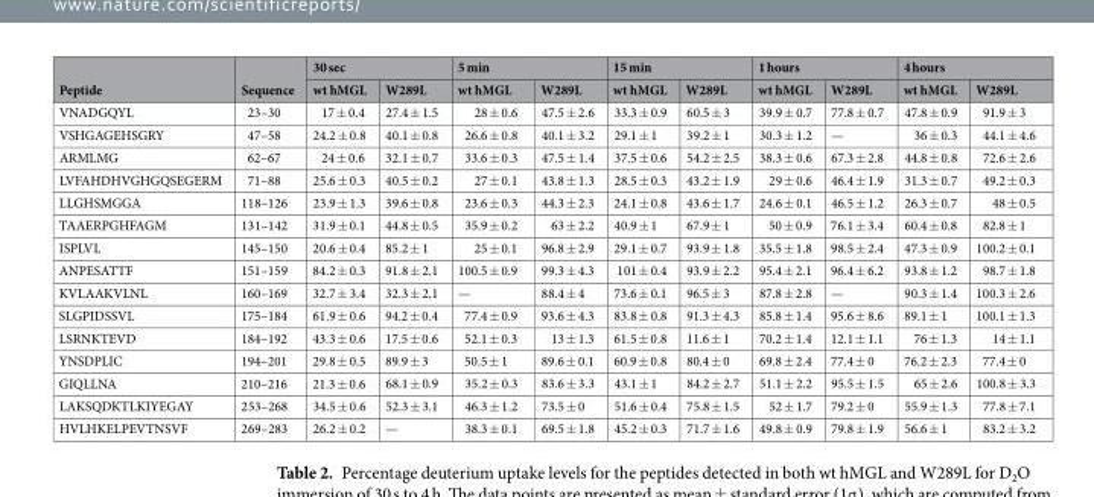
<table><thead><tr><td rowspan="2">Peptide</td><td rowspan="2">Sequence</td><td colspan="2">30 sec</td><td colspan="2">5 min</td><td colspan="2">15 min</td><td colspan="2">1 hours</td><td colspan="2">4 hours</td></tr><tr><td>wt hMGL</td><td>W289L</td><td>wt hMGL</td><td>W289L</td><td>wt hMGL</td><td>W289L</td><td>wt hMGL</td><td>W289L</td><td>wt hMGL</td><td>W289L</td></tr></thead><tbody><tr><td>VNADGQYL</td><td>23–30</td><td>17 ± 0.4</td><td>27.4 ± 1.5</td><td>28 ± 0.6</td><td>47.5 ± 2.6</td><td>33.3 ± 0.9</td><td>60.5 ± 3</td><td>39.9 ± 0.7</td><td>77.8 ± 0.7</td><td>47.8 ± 0.9</td><td>91.9 ± 3</td></tr><tr><td>VSHGAGEHSGRY</td><td>47–58</td><td>24.2 ± 0.8</td><td>40.1 ± 0.8</td><td>26.6 ± 0.8</td><td>40.1 ± 3.2</td><td>29.1 ± 1</td><td>39.2 ± 1</td><td>30.3 ± 1.2</td><td>—</td><td>36 ± 0.3</td><td>44.1 ± 4.6</td></tr><tr><td>ARMLMG</td><td>62–67</td><td>24 ± 0.6</td><td>32.1 ± 0.7</td><td>33.6 ± 0.3</td><td>47.5 ± 1.4</td><td>37.5 ± 0.6</td><td>54.2 ± 2.5</td><td>38.3 ± 0.6</td><td>67.3 ± 2.8</td><td>44.8 ± 0.8</td><td>72.6 ± 2.6</td></tr><tr><td>LVFAHDHVGHGQSEGERM</td><td>71–88</td><td>25.6 ± 0.3</td><td>40.5 ± 0.2</td><td>27 ± 0.1</td><td>43.8 ± 1.3</td><td>28.5 ± 0.3</td><td>43.2 ± 1.9</td><td>29 ± 0.6</td><td>46.4 ± 1.9</td><td>31.3 ± 0.7</td><td>49.2 ± 0.3</td></tr><tr><td>LLGHSMGGA</td><td>118–126</td><td>23.9 ± 1.3</td><td>39.6 ± 0.8</td><td>23.6 ± 0.3</td><td>44.3 ± 2.3</td><td>24.1 ± 0.8</td><td>43.6 ± 1.7</td><td>24.6 ± 0.1</td><td>46.5 ± 1.2</td><td>26.3 ± 0.7</td><td>48 ± 0.5</td></tr><tr><td>TAAERPGHFAGM</td><td>131–142</td><td>31.9 ± 0.1</td><td>44.8 ± 0.5</td><td>35.9 ± 0.2</td><td>63 ± 2.2</td><td>40.9 ± 1</td><td>67.9 ± 1</td><td>50 ± 0.9</td><td>76.1 ± 3.4</td><td>60.4 ± 0.8</td><td>82.8 ± 1</td></tr><tr><td>ISPLVL</td><td>145–150</td><td>20.6 ± 0.4</td><td>85.2 ± 1</td><td>25 ± 0.1</td><td>96.8 ± 2.9</td><td>29.1 ± 0.7</td><td>93.9 ± 1.8</td><td>35.5 ± 1.8</td><td>98.5 ± 2.4</td><td>47.3 ± 0.9</td><td>100.2 ± 0.1</td></tr><tr><td>ANPESATTF</td><td>151–159</td><td>84.2 ± 0.3</td><td>91.8 ± 2.1</td><td>100.5 ± 0.9</td><td>99.3 ± 4.3</td><td>101 ± 0.4</td><td>93.9 ± 2.2</td><td>95.4 ± 2.1</td><td>96.4 ± 6.2</td><td>93.8 ± 1.2</td><td>98.7 ± 1.8</td></tr><tr><td>KVLAAKVLNL</td><td>160–169</td><td>32.7 ± 3.4</td><td>32.3 ± 2.1</td><td>—</td><td>88.4 ± 4</td><td>73.6 ± 0.1</td><td>96.5 ± 3</td><td>87.8 ± 2.8</td><td>—</td><td>90.3 ± 1.4</td><td>100.3 ± 2.6</td></tr><tr><td>SLGPIDSSVL</td><td>175–184</td><td>61.9 ± 0.6</td><td>94.2 ± 0.4</td><td>77.4 ± 0.9</td><td>93.6 ± 4.3</td><td>83.8 ± 0.8</td><td>91.3 ± 4.3</td><td>85.8 ± 1.4</td><td>95.6 ± 8.6</td><td>89.1 ± 1</td><td>100.1 ± 1.3</td></tr><tr><td>LSRNKTEVD</td><td>184–192</td><td>43.3 ± 0.6</td><td>17.5 ± 0.6</td><td>52.1 ± 0.3</td><td>13 ± 1.3</td><td>61.5 ± 0.8</td><td>11.6 ± 1</td><td>70.2 ± 1.4</td><td>12.1 ± 1.1</td><td>76 ± 1.3</td><td>14 ± 1.1</td></tr><tr><td>YNSDPLIC</td><td>194–201</td><td>29.8 ± 0.5</td><td>89.9 ± 3</td><td>50.5 ± 1</td><td>89.6 ± 0.1</td><td>60.9 ± 0.8</td><td>80.4 ± 0</td><td>69.8 ± 2.4</td><td>77.4 ± 0</td><td>76.2 ± 2.3</td><td>77.4 ± 0</td></tr><tr><td>GIQLLNA</td><td>210–216</td><td>21.3 ± 0.6</td><td>68.1 ± 0.9</td><td>35.2 ± 0.3</td><td>83.6 ± 3.3</td><td>43.1 ± 1</td><td>84.2 ± 2.7</td><td>51.1 ± 2.2</td><td>95.5 ± 1.5</td><td>65 ± 2.6</td><td>100.8 ± 3.3</td></tr><tr><td>LAKSQDKTLKIYEGAY</td><td>253–268</td><td>34.5 ± 0.6</td><td>52.3 ± 3.1</td><td>46.3 ± 1.2</td><td>73.5 ± 0</td><td>51.6 ± 0.4</td><td>75.8 ± 1.5</td><td>52 ± 1.7</td><td>79.2 ± 0</td><td>55.9 ± 1.3</td><td>77.8 ± 7.1</td></tr><tr><td>HVLHKELPEVTNSVF</td><td>269–283</td><td>26.2 ± 0.2</td><td>—</td><td>38.3 ± 0.1</td><td>69.5 ± 1.8</td><td>45.2 ± 0.3</td><td>71.7 ± 1.6</td><td>49.8 ± 0.9</td><td>79.8 ± 1.9</td><td>56.6 ± 1</td><td>83.2 ± 3.2</td></tr></tbody></table>